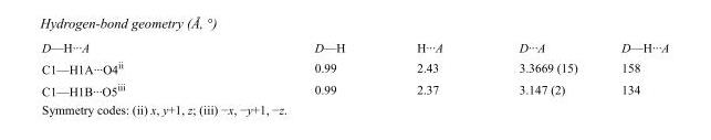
<table><tbody><tr><td>D—H···A</td><td>D—H</td><td>H···A</td><td>D···A</td><td>D—H···A</td></tr><tr><td>C1—H1A···O4<sup>ii</sup></td><td>0.99</td><td>2.43</td><td>3.3669 (15)</td><td>158</td></tr><tr><td>C1—H1B···O5<sup>iii</sup></td><td>0.99</td><td>2.37</td><td>3.147 (2)</td><td>134</td></tr></tbody></table>